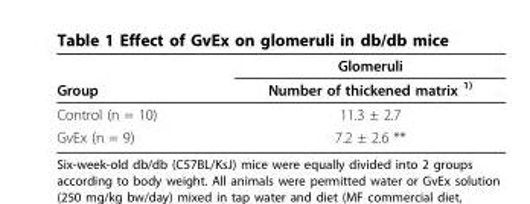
<table><thead><tr><td rowspan="2">Group</td><td rowspan="2">Glomeruli Number of thickened matrix <sup>1)</sup></td></tr><tr></tr></thead><tbody><tr><td>Control (n = 10)</td><td>11.3 ± 2.7</td></tr><tr><td>GvEx (n = 9)</td><td>7.2 ± 2.6 **</td></tr></tbody></table>